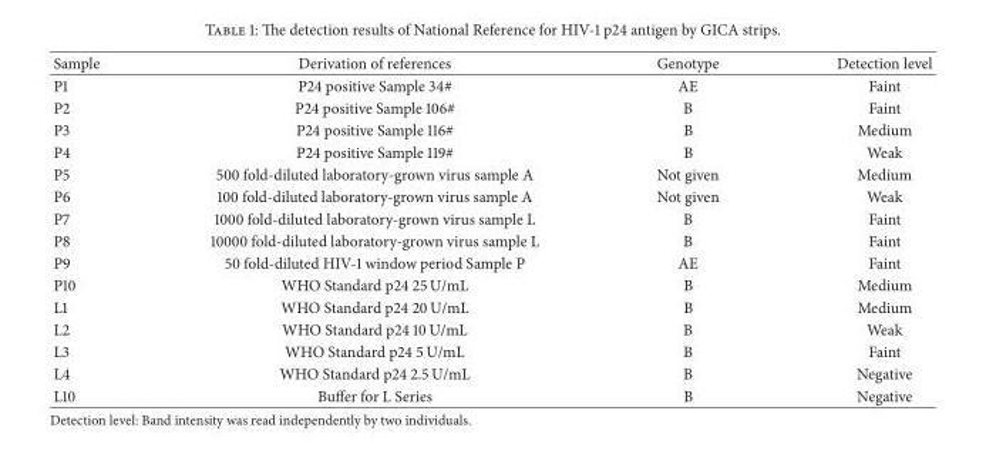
<table><thead><tr><td>Sample</td><td>Derivation of references</td><td>Genotype</td><td>Detection level</td></tr></thead><tbody><tr><td>P1</td><td>P24 positive Sample 34#</td><td>AE</td><td>Faint</td></tr><tr><td>P2</td><td>P24 positive Sample 106#</td><td>B</td><td>Faint</td></tr><tr><td>P3</td><td>P24 positive Sample 116#</td><td>B</td><td>Medium</td></tr><tr><td>P4</td><td>P24 positive Sample 119#</td><td>B</td><td>Weak</td></tr><tr><td>P5</td><td>500 fold-diluted laboratory-grown virus sample A</td><td>Not given</td><td>Medium</td></tr><tr><td>P6</td><td>100 fold-diluted laboratory-grown virus sample A</td><td>Not given</td><td>Weak</td></tr><tr><td>P7</td><td>1000 fold-diluted laboratory-grown virus sample L</td><td>B</td><td>Faint</td></tr><tr><td>P8</td><td>10000 fold-diluted laboratory-grown virus sample L</td><td>B</td><td>Faint</td></tr><tr><td>P9</td><td>50 fold-diluted HIV-1 window period Sample P</td><td>AE</td><td>Faint</td></tr><tr><td>P10</td><td>WHO Standard p24 25 U/mL</td><td>B</td><td>Medium</td></tr><tr><td>L1</td><td>WHO Standard p24 20 U/mL</td><td>B</td><td>Medium</td></tr><tr><td>L2</td><td>WHO Standard p24 10 U/mL</td><td>B</td><td>Weak</td></tr><tr><td>L3</td><td>WHO Standard p24 5 U/mL</td><td>B</td><td>Faint</td></tr><tr><td>L4</td><td>WHO Standard p24 2.5 U/mL</td><td>B</td><td>Negative</td></tr><tr><td>L10</td><td>Buffer for L Series</td><td>B</td><td>Negative</td></tr></tbody></table>